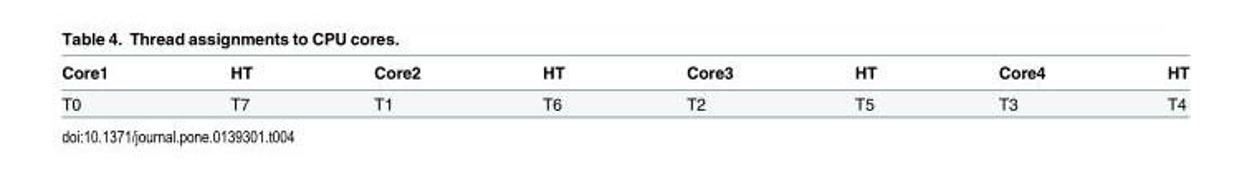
<table><thead><tr><td>Core1</td><td>HT</td><td>Core2</td><td>HT</td><td>Core3</td><td>HT</td><td>Core4</td><td>HT</td></tr></thead><tbody><tr><td>T0</td><td>T7</td><td>T1</td><td>T6</td><td>T2</td><td>T5</td><td>T3</td><td>T4</td></tr></tbody></table>